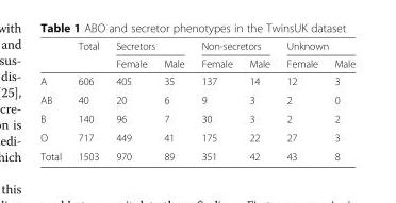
<table><thead><tr><td rowspan="2"></td><td rowspan="2">Total</td><td colspan="2">Secretors</td><td colspan="2">Non-secretors</td><td colspan="2">Unknown</td></tr><tr><td>Female</td><td>Male</td><td>Female</td><td>Male</td><td>Female</td><td>Male</td></tr></thead><tbody><tr><td>A</td><td>606</td><td>405</td><td>35</td><td>137</td><td>14</td><td>12</td><td>3</td></tr><tr><td>AB</td><td>40</td><td>20</td><td>6</td><td>9</td><td>3</td><td>2</td><td>0</td></tr><tr><td>B</td><td>140</td><td>96</td><td>7</td><td>30</td><td>3</td><td>2</td><td>2</td></tr><tr><td>O</td><td>717</td><td>449</td><td>41</td><td>175</td><td>22</td><td>27</td><td>3</td></tr><tr><td>Total</td><td>1503</td><td>970</td><td>89</td><td>351</td><td>42</td><td>43</td><td>8</td></tr></tbody></table>